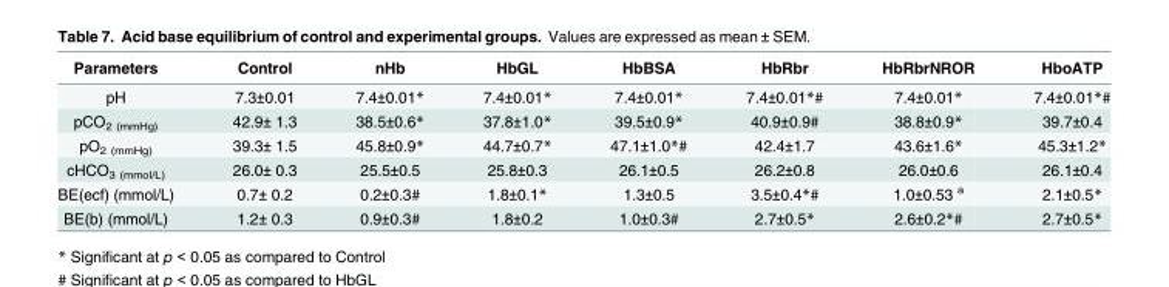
<table><thead><tr><td>Parameters</td><td>Control</td><td>nHb</td><td>HbGL</td><td>HbBSA</td><td>HbRbr</td><td>HbRbrNROR</td><td>HboATP</td></tr></thead><tbody><tr><td>pH</td><td>7.3±0.01</td><td>7.4±0.01*</td><td>7.4±0.01*</td><td>7.4±0.01*</td><td>7.4±0.01*#</td><td>7.4±0.01*</td><td>7.4±0.01*#</td></tr><tr><td>pCO<sub>2 (mmHg)</sub></td><td>42.9± 1.3</td><td>38.5±0.6*</td><td>37.8±1.0*</td><td>39.5±0.9*</td><td>40.9±0.9#</td><td>38.8±0.9*</td><td>39.7±0.4</td></tr><tr><td>pO<sub>2 (mmHg)</sub></td><td>39.3± 1.5</td><td>45.8±0.9*</td><td>44.7±0.7*</td><td>47.1±1.0*#</td><td>42.4±1.7</td><td>43.6±1.6*</td><td>45.3±1.2*</td></tr><tr><td>cHCO<sub>3 (mmol/L)</sub></td><td>26.0± 0.3</td><td>25.5±0.5</td><td>25.8±0.3</td><td>26.1±0.5</td><td>26.2±0.8</td><td>26.0±0.6</td><td>26.1±0.4</td></tr><tr><td>BE(ecf) (mmol/L)</td><td>0.7± 0.2</td><td>0.2±0.3#</td><td>1.8±0.1*</td><td>1.3±0.5</td><td>3.5±0.4*#</td><td>1.0±0.53 <sup>a</sup></td><td>2.1±0.5*</td></tr><tr><td>BE(b) (mmol/L)</td><td>1.2± 0.3</td><td>0.9±0.3#</td><td>1.8±0.2</td><td>1.0±0.3#</td><td>2.7±0.5*</td><td>2.6±0.2*#</td><td>2.7±0.5*</td></tr></tbody></table>